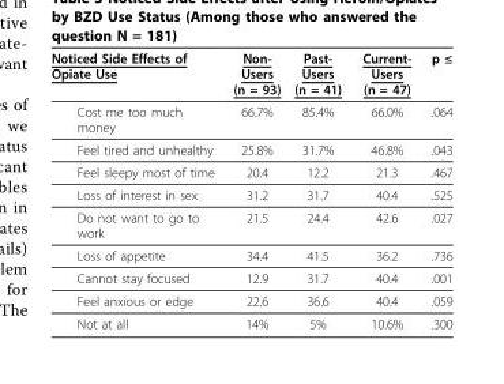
<table><thead><tr><td>Noticed Side Effects of Opiate Use</td><td>Non- Users (n = 93)</td><td>Past- Users (n = 41)</td><td>Current- Users (n = 47)</td><td>p ≤</td></tr></thead><tbody><tr><td>Cost me too much money</td><td>66.7%</td><td>85.4%</td><td>66.0%</td><td>.064</td></tr><tr><td>Feel tired and unhealthy</td><td>25.8%</td><td>31.7%</td><td>46.8%</td><td>.043</td></tr><tr><td>Feel sleepy most of time</td><td>20.4</td><td>12.2</td><td>21.3</td><td>.467</td></tr><tr><td>Loss of interest in sex</td><td>31.2</td><td>31.7</td><td>40.4</td><td>.525</td></tr><tr><td>Do not want to go to work</td><td>21.5</td><td>24.4</td><td>42.6</td><td>.027</td></tr><tr><td>Loss of appetite</td><td>34.4</td><td>41.5</td><td>36.2</td><td>.736</td></tr><tr><td>Cannot stay focused</td><td>12.9</td><td>31.7</td><td>40.4</td><td>.001</td></tr><tr><td>Feel anxious or edge</td><td>22.6</td><td>36.6</td><td>40.4</td><td>.059</td></tr><tr><td>Not at all</td><td>14%</td><td>5%</td><td>10.6%</td><td>.300</td></tr></tbody></table>